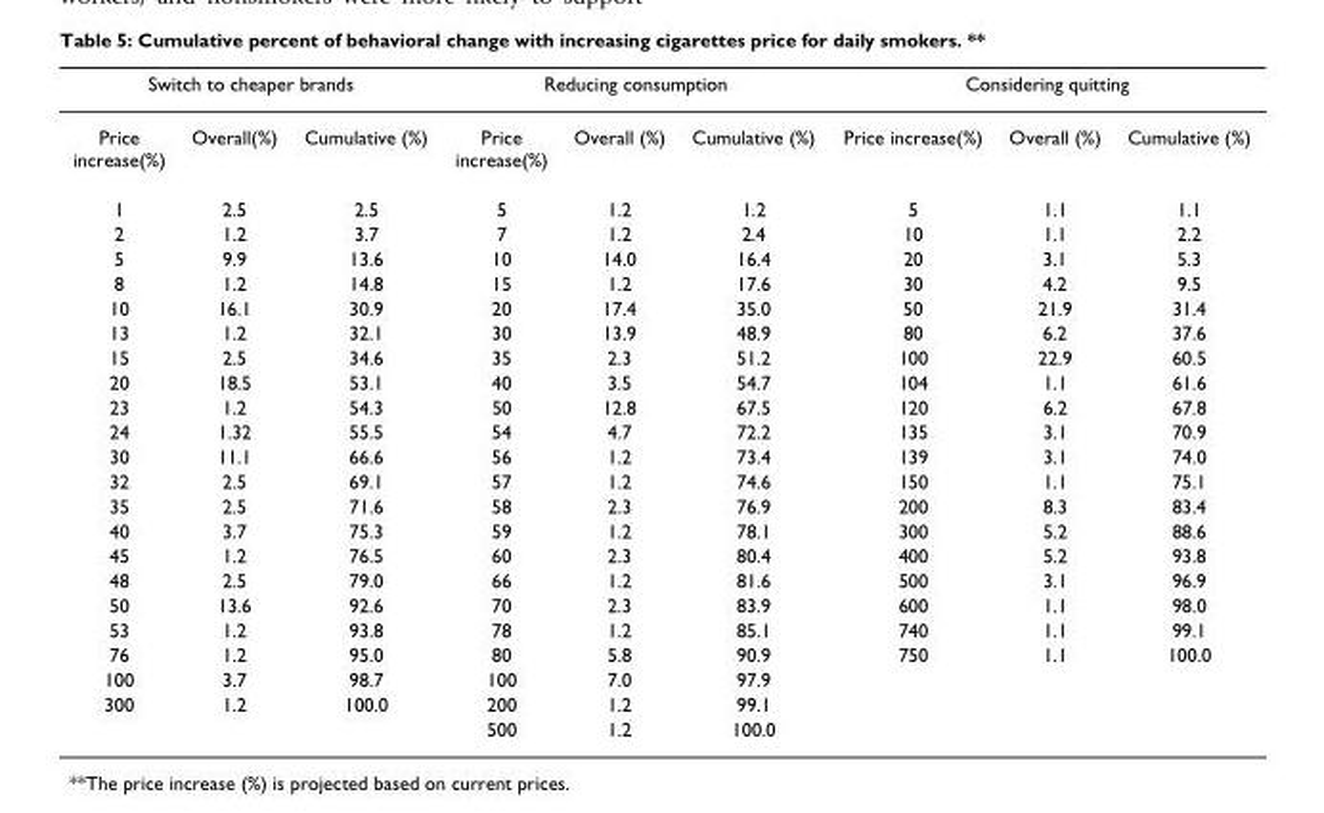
<table><thead><tr><td colspan="3">Switch to cheaper brands</td><td colspan="3">Reducing consumption</td><td colspan="3">Considering quitting</td></tr><tr><td>Price increase(%)</td><td>Overall(%)</td><td>Cumulative (%)</td><td>Price increase(%)</td><td>Overall (%)</td><td>Cumulative (%)</td><td>Price increase(%)</td><td>Overall (%)</td><td>Cumulative (%)</td></tr></thead><tbody><tr><td>1</td><td>2.5</td><td>2.5</td><td>5</td><td>1.2</td><td>1.2</td><td>5</td><td>1.1</td><td>1.1</td></tr><tr><td>2</td><td>1.2</td><td>3.7</td><td>7</td><td>1.2</td><td>2.4</td><td>10</td><td>1.1</td><td>2.2</td></tr><tr><td>5</td><td>9.9</td><td>13.6</td><td>10</td><td>14.0</td><td>16.4</td><td>20</td><td>3.1</td><td>5.3</td></tr><tr><td>8</td><td>1.2</td><td>14.8</td><td>15</td><td>1.2</td><td>17.6</td><td>30</td><td>4.2</td><td>9.5</td></tr><tr><td>10</td><td>16.1</td><td>30.9</td><td>20</td><td>17.4</td><td>35.0</td><td>50</td><td>21.9</td><td>31.4</td></tr><tr><td>13</td><td>1.2</td><td>32.1</td><td>30</td><td>13.9</td><td>48.9</td><td>80</td><td>6.2</td><td>37.6</td></tr><tr><td>15</td><td>2.5</td><td>34.6</td><td>35</td><td>2.3</td><td>51.2</td><td>100</td><td>22.9</td><td>60.5</td></tr><tr><td>20</td><td>18.5</td><td>53.1</td><td>40</td><td>3.5</td><td>54.7</td><td>104</td><td>1.1</td><td>61.6</td></tr><tr><td>23</td><td>1.2</td><td>54.3</td><td>50</td><td>12.8</td><td>67.5</td><td>120</td><td>6.2</td><td>67.8</td></tr><tr><td>24</td><td>1.32</td><td>55.5</td><td>54</td><td>4.7</td><td>72.2</td><td>135</td><td>3.1</td><td>70.9</td></tr><tr><td>30</td><td>11.1</td><td>66.6</td><td>56</td><td>1.2</td><td>73.4</td><td>139</td><td>3.1</td><td>74.0</td></tr><tr><td>32</td><td>2.5</td><td>69.1</td><td>57</td><td>1.2</td><td>74.6</td><td>150</td><td>1.1</td><td>75.1</td></tr><tr><td>35</td><td>2.5</td><td>71.6</td><td>58</td><td>2.3</td><td>76.9</td><td>200</td><td>8.3</td><td>83.4</td></tr><tr><td>40</td><td>3.7</td><td>75.3</td><td>59</td><td>1.2</td><td>78.1</td><td>300</td><td>5.2</td><td>88.6</td></tr><tr><td>45</td><td>1.2</td><td>76.5</td><td>60</td><td>2.3</td><td>80.4</td><td>400</td><td>5.2</td><td>93.8</td></tr><tr><td>48</td><td>2.5</td><td>79.0</td><td>66</td><td>1.2</td><td>81.6</td><td>500</td><td>3.1</td><td>96.9</td></tr><tr><td>50</td><td>13.6</td><td>92.6</td><td>70</td><td>2.3</td><td>83.9</td><td>600</td><td>1.1</td><td>98.0</td></tr><tr><td>53</td><td>1.2</td><td>93.8</td><td>78</td><td>1.2</td><td>85.1</td><td>740</td><td>1.1</td><td>99.1</td></tr><tr><td>76</td><td>1.2</td><td>95.0</td><td>80</td><td>5.8</td><td>90.9</td><td>750</td><td>1.1</td><td>100.0</td></tr><tr><td>100</td><td>3.7</td><td>98.7</td><td>100</td><td>7.0</td><td>97.9</td><td></td><td></td><td></td></tr><tr><td rowspan="2">300</td><td>1.2</td><td>100.0</td><td>200</td><td>1.2</td><td>99.1</td><td></td><td></td><td></td></tr><tr><td></td><td></td><td>500</td><td>1.2</td><td>100.0</td><td></td><td></td><td></td></tr></tbody></table>